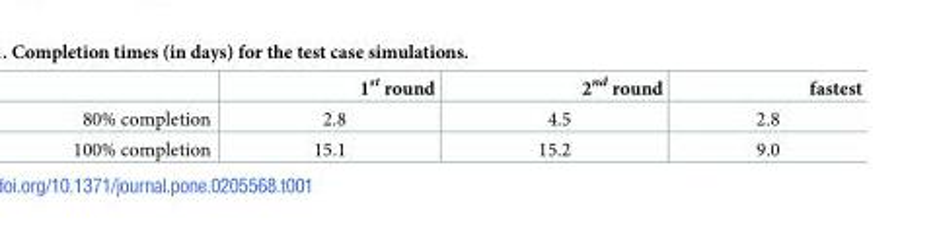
<table><thead><tr><td></td><td>1<sup>st</sup> round</td><td>2<sup>nd</sup> round</td><td>fastest</td></tr></thead><tbody><tr><td>80% completion</td><td>2.8</td><td>4.5</td><td>2.8</td></tr><tr><td>100% completion</td><td>15.1</td><td>15.2</td><td>9.0</td></tr></tbody></table>